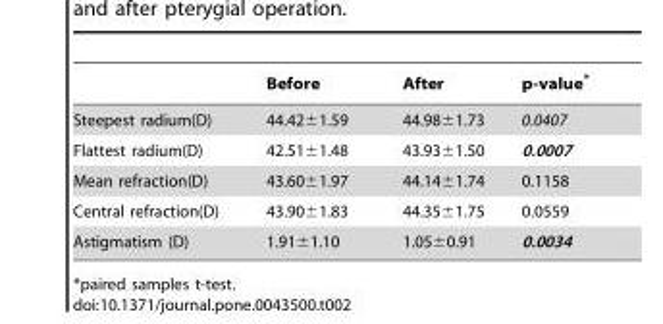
<table><thead><tr><td></td><td>Before</td><td>After</td><td>p-value*</td></tr></thead><tbody><tr><td>Steepest radium(D)</td><td>44.42±1.59</td><td>44.98±1.73</td><td>0.0407</td></tr><tr><td>Flattest radium(D)</td><td>42.51±1.48</td><td>43.93±1.50</td><td>0.0007</td></tr><tr><td>Mean refraction(D)</td><td>43.60±1.97</td><td>44.14±1.74</td><td>0.1158</td></tr><tr><td>Central refraction(D)</td><td>43.90±1.83</td><td>44.35±1.75</td><td>0.0559</td></tr><tr><td>Astigmatism (D)</td><td>1.91±1.10</td><td>1.05±0.91</td><td>0.0034</td></tr></tbody></table>